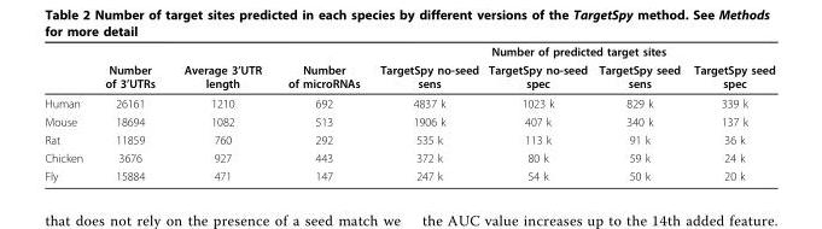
<table><thead><tr><td rowspan="2"></td><td rowspan="2">Number of 3’UTRs</td><td rowspan="2">Average 3’UTR length</td><td rowspan="2">Number of microRNAs</td><td colspan="4">Number of predicted target sites</td></tr><tr><td>TargetSpy no-seed sens</td><td>TargetSpy no-seed spec</td><td>TargetSpy seed sens</td><td>TargetSpy seed spec</td></tr></thead><tbody><tr><td>Human</td><td>26161</td><td>1210</td><td>692</td><td>4837 k</td><td>1023 k</td><td>829 k</td><td>339 k</td></tr><tr><td>Mouse</td><td>18694</td><td>1082</td><td>513</td><td>1906 k</td><td>407 k</td><td>340 k</td><td>137 k</td></tr><tr><td>Rat</td><td>11859</td><td>760</td><td>292</td><td>535 k</td><td>113 k</td><td>91 k</td><td>36 k</td></tr><tr><td>Chicken</td><td>3676</td><td>927</td><td>443</td><td>372 k</td><td>80 k</td><td>59 k</td><td>24 k</td></tr><tr><td>Fly</td><td>15884</td><td>471</td><td>147</td><td>247 k</td><td>54 k</td><td>50 k</td><td>20 k</td></tr></tbody></table>